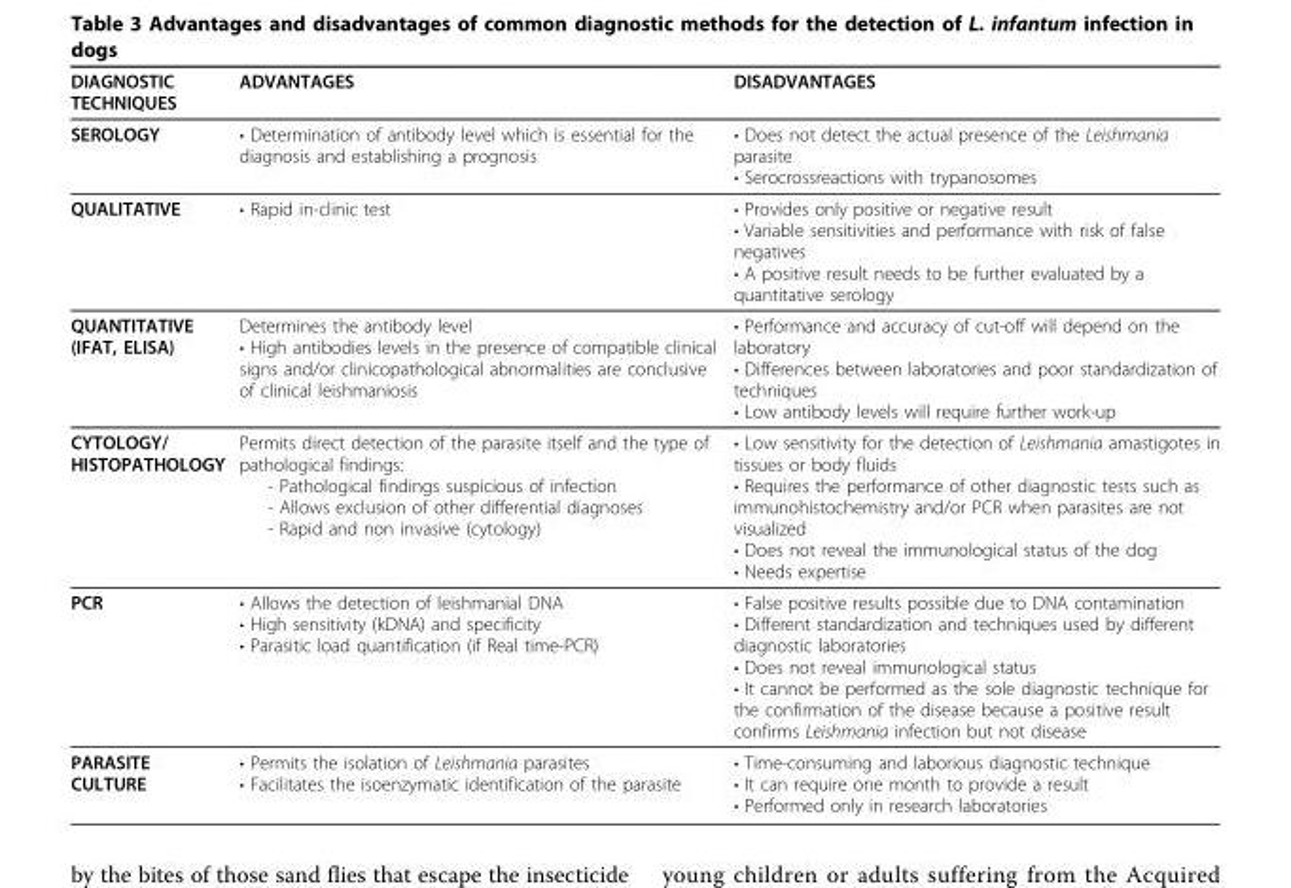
<table><thead><tr><td>DIAGNOSTIC TECHNIQUES</td><td>ADVANTAGES</td><td>DISADVANTAGES</td></tr></thead><tbody><tr><td>SEROLOGY</td><td>• Determination of antibody level which is essential for the diagnosis and establishing a prognosis</td><td>• Does not detect the actual presence of the Leishmania parasite • Serocrossreactions with trypanosomes</td></tr><tr><td>QUALITATIVE</td><td>• Rapid in-clinic test</td><td>• Provides only positive or negative result • Variable sensitivities and performance with risk of false negatives • A positive result needs to be further evaluated by a quantitative serology</td></tr><tr><td>QUANTITATIVE (IFAT, ELISA)</td><td>Determines the antibody level • High antibodies levels in the presence of compatible clinical signs and/or clinicopathological abnormalities are conclusive of clinical leishmaniosis</td><td>• Performance and accuracy of cut-off will depend on the laboratory • Differences between laboratories and poor standardization of techniques • Low antibody levels will require further work-up</td></tr><tr><td>CYTOLOGY/ HISTOPATHOLOGY</td><td>Permits direct detection of the parasite itself and the type of pathological findings: - Pathological findings suspicious of infection - Allows exclusion of other differential diagnoses - Rapid and non invasive (cytology)</td><td>• Low sensitivity for the detection of Leishmania amastigotes in tissues or body fluids • Requires the performance of other diagnostic tests such as immunohistochemistry and/or PCR when parasites are not visualized • Does not reveal the immunological status of the dog • Needs expertise</td></tr><tr><td>PCR</td><td>• Allows the detection of leishmanial DNA • High sensitivity (kDNA) and specificity • Parasitic load quantification (if Real time-PCR)</td><td>• False positive results possible due to DNA contamination • Different standardization and techniques used by different diagnostic laboratories • Does not reveal immunological status • It cannot be performed as the sole diagnostic technique for the confirmation of the disease because a positive result confirms Leishmania infection but not disease</td></tr><tr><td>PARASITE CULTURE</td><td>• Permits the isolation of Leishmania parasites • Facilitates the isoenzymatic identification of the parasite</td><td>• Time-consuming and laborious diagnostic technique • It can require one month to provide a result • Performed only in research laboratories</td></tr></tbody></table>